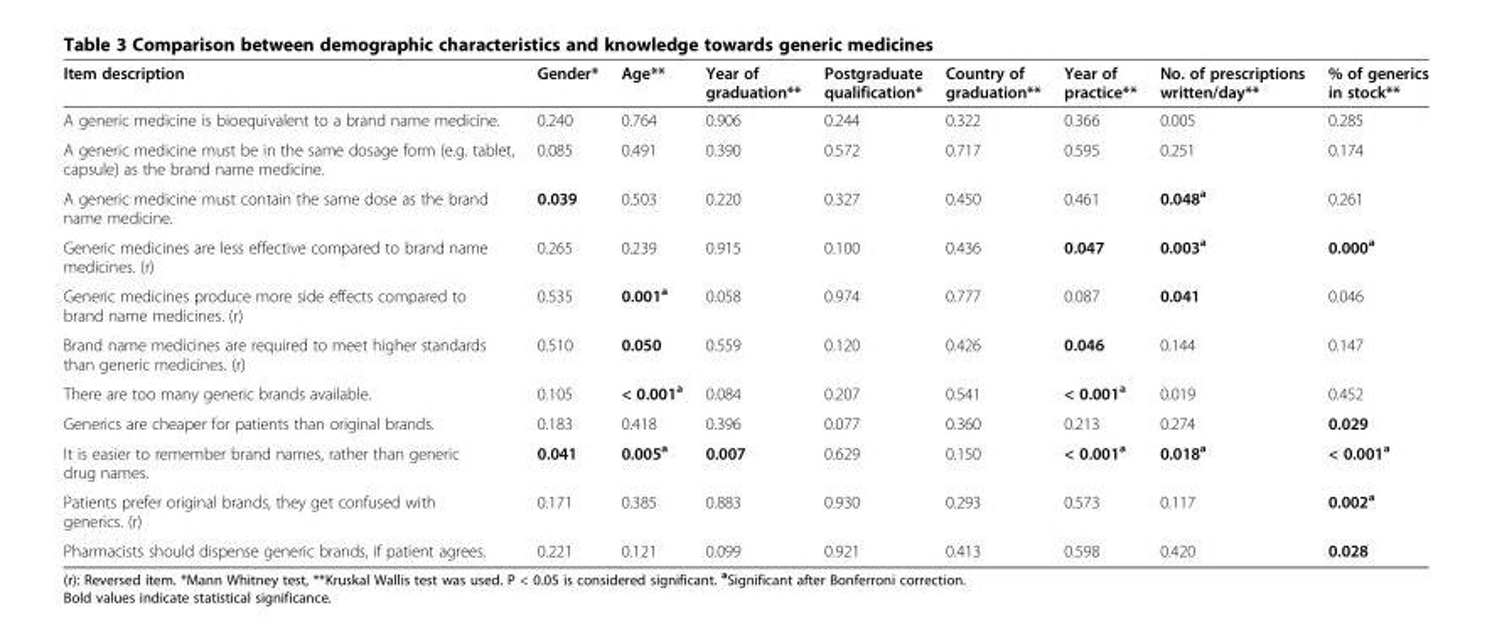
<table><thead><tr><td>Item description</td><td>Gender*</td><td>Age**</td><td>Year of graduation**</td><td>Postgraduate qualification*</td><td>Country of graduation**</td><td>Year of practice**</td><td>No. of prescriptions written/day**</td><td>% of generics in stock**</td></tr></thead><tbody><tr><td>A generic medicine is bioequivalent to a brand name medicine.</td><td>0.240</td><td>0.764</td><td>0.906</td><td>0.244</td><td>0.322</td><td>0.366</td><td>0.005</td><td>0.285</td></tr><tr><td>A generic medicine must be in the same dosage form (e.g. tablet, capsule) as the brand name medicine.</td><td>0.085</td><td>0.491</td><td>0.390</td><td>0.572</td><td>0.717</td><td>0.595</td><td>0.251</td><td>0.174</td></tr><tr><td>A generic medicine must contain the same dose as the brand name medicine.</td><td>0.039</td><td>0.503</td><td>0.220</td><td>0.327</td><td>0.450</td><td>0.461</td><td>0.048<sup>a</sup></td><td>0.261</td></tr><tr><td>Generic medicines are less effective compared to brand name medicines. (r)</td><td>0.265</td><td>0.239</td><td>0.915</td><td>0.100</td><td>0.436</td><td>0.047</td><td>0.003<sup>a</sup></td><td>0.000<sup>a</sup></td></tr><tr><td>Generic medicines produce more side effects compared to brand name medicines. (r)</td><td>0.535</td><td>0.001<sup>a</sup></td><td>0.058</td><td>0.974</td><td>0.777</td><td>0.087</td><td>0.041</td><td>0.046</td></tr><tr><td>Brand name medicines are required to meet higher standards than generic medicines. (r)</td><td>0.510</td><td>0.050</td><td>0.559</td><td>0.120</td><td>0.426</td><td>0.046</td><td>0.144</td><td>0.147</td></tr><tr><td>There are too many generic brands available.</td><td>0.105</td><td>&lt; 0.001<sup>a</sup></td><td>0.084</td><td>0.207</td><td>0.541</td><td>&lt; 0.001<sup>a</sup></td><td>0.019</td><td>0.452</td></tr><tr><td>Generics are cheaper for patients than original brands.</td><td>0.183</td><td>0.418</td><td>0.396</td><td>0.077</td><td>0.360</td><td>0.213</td><td>0.274</td><td>0.029</td></tr><tr><td>It is easier to remember brand names, rather than generic drug names.</td><td>0.041</td><td>0.005<sup>a</sup></td><td>0.007</td><td>0.629</td><td>0.150</td><td>&lt; 0.001<sup>a</sup></td><td>0.018<sup>a</sup></td><td>&lt; 0.001<sup>a</sup></td></tr><tr><td>Patients prefer original brands, they get confused with generics. (r)</td><td>0.171</td><td>0.385</td><td>0.883</td><td>0.930</td><td>0.293</td><td>0.573</td><td>0.117</td><td>0.002<sup>a</sup></td></tr><tr><td>Pharmacists should dispense generic brands, if patient agrees.</td><td>0.221</td><td>0.121</td><td>0.099</td><td>0.921</td><td>0.413</td><td>0.598</td><td>0.420</td><td>0.028</td></tr></tbody></table>